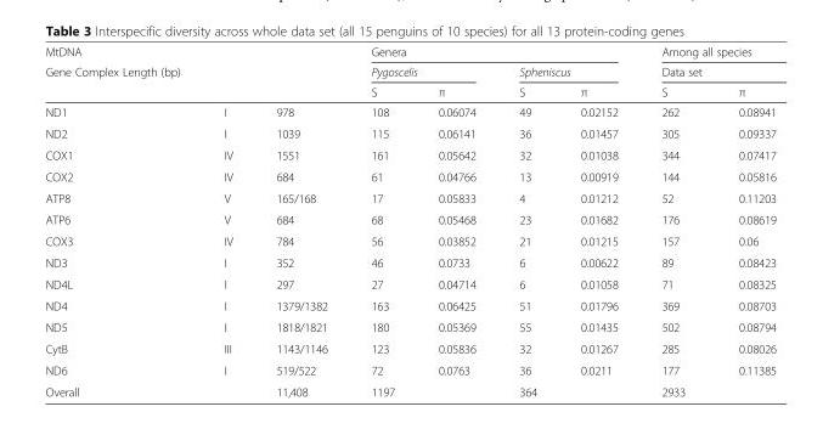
<table><thead><tr><td rowspan="3">MtDNA Gene Complex Length (bp)</td><td rowspan="3"></td><td rowspan="3"></td><td colspan="4">Genera</td><td rowspan="2" colspan="2">Among all species Data set</td></tr><tr><td colspan="2">Pygoscelis</td><td colspan="2">Spheniscus</td></tr><tr><td>S</td><td>π</td><td>S</td><td>π</td><td>S</td><td>π</td></tr></thead><tbody><tr><td>ND1</td><td>I</td><td>978</td><td>108</td><td>0.06074</td><td>49</td><td>0.02152</td><td>262</td><td>0.08941</td></tr><tr><td>ND2</td><td>I</td><td>1039</td><td>115</td><td>0.06141</td><td>36</td><td>0.01457</td><td>305</td><td>0.09337</td></tr><tr><td>COX1</td><td>IV</td><td>1551</td><td>161</td><td>0.05642</td><td>32</td><td>0.01038</td><td>344</td><td>0.07417</td></tr><tr><td>COX2</td><td>IV</td><td>684</td><td>61</td><td>0.04766</td><td>13</td><td>0.00919</td><td>144</td><td>0.05816</td></tr><tr><td>ATP8</td><td>V</td><td>165/168</td><td>17</td><td>0.05833</td><td>4</td><td>0.01212</td><td>52</td><td>0.11203</td></tr><tr><td>ATP6</td><td>V</td><td>684</td><td>68</td><td>0.05468</td><td>23</td><td>0.01682</td><td>176</td><td>0.08619</td></tr><tr><td>COX3</td><td>IV</td><td>784</td><td>56</td><td>0.03852</td><td>21</td><td>0.01215</td><td>157</td><td>0.06</td></tr><tr><td>ND3</td><td>I</td><td>352</td><td>46</td><td>0.0733</td><td>6</td><td>0.00622</td><td>89</td><td>0.08423</td></tr><tr><td>ND4L</td><td>I</td><td>297</td><td>27</td><td>0.04714</td><td>6</td><td>0.01058</td><td>71</td><td>0.08325</td></tr><tr><td>ND4</td><td>I</td><td>1379/1382</td><td>163</td><td>0.06425</td><td>51</td><td>0.01796</td><td>369</td><td>0.08703</td></tr><tr><td>ND5</td><td>I</td><td>1818/1821</td><td>180</td><td>0.05369</td><td>55</td><td>0.01435</td><td>502</td><td>0.08794</td></tr><tr><td>CytB</td><td>III</td><td>1143/1146</td><td>123</td><td>0.05836</td><td>32</td><td>0.01267</td><td>285</td><td>0.08026</td></tr><tr><td>ND6</td><td>I</td><td>519/522</td><td>72</td><td>0.0763</td><td>36</td><td>0.0211</td><td>177</td><td>0.11385</td></tr><tr><td>Overall</td><td></td><td>11,408</td><td>1197</td><td></td><td>364</td><td></td><td>2933</td><td></td></tr></tbody></table>